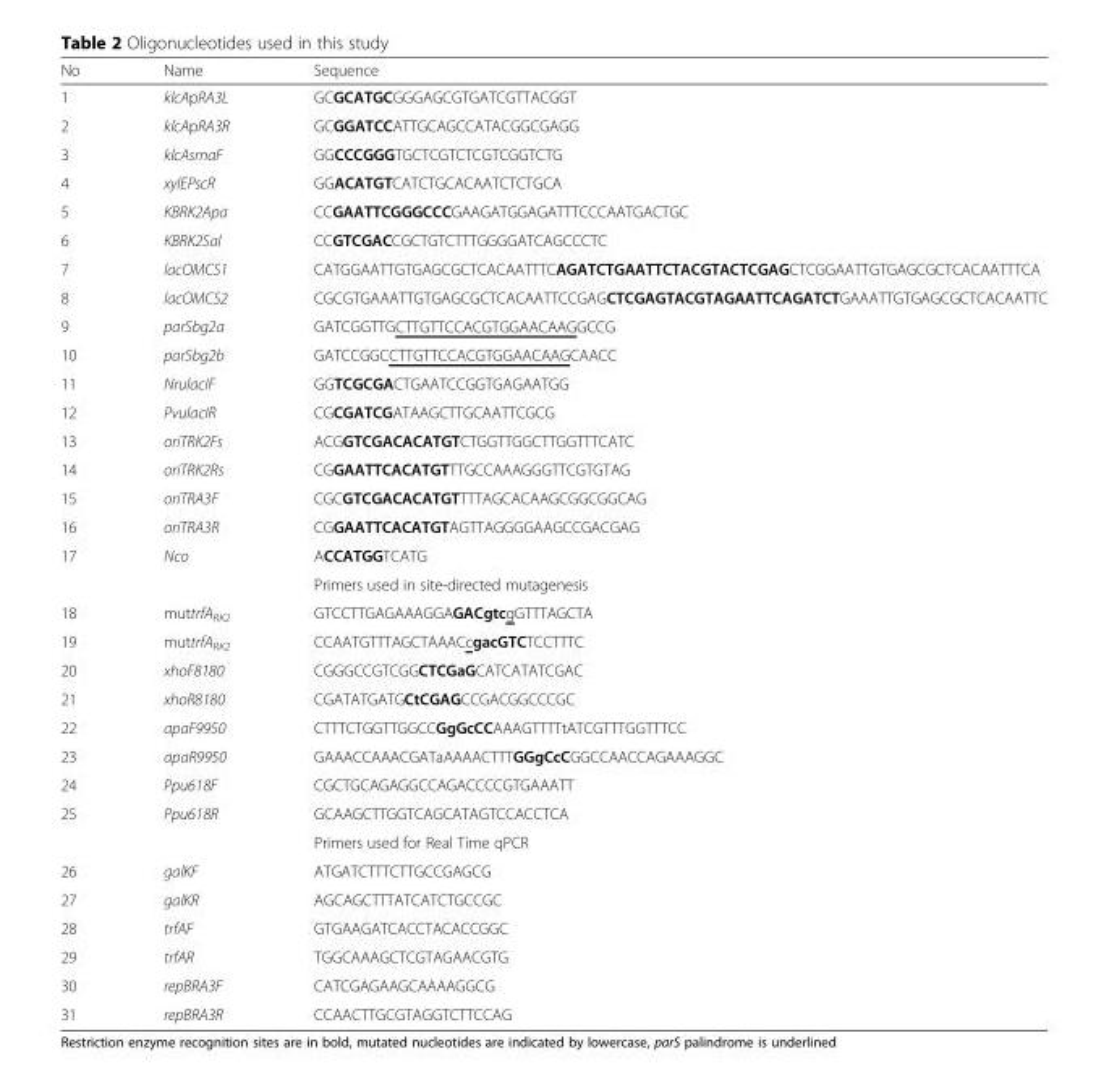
<table><thead><tr><td>No</td><td>Name</td><td>Sequence</td></tr></thead><tbody><tr><td>1</td><td>klcApRA3L</td><td>GCGCATGCGGGAGCGTGATCGTTACGGT</td></tr><tr><td>2</td><td>klcApRA3R</td><td>GCGGATCCATTGCAGCCATACGGCGAGG</td></tr><tr><td>3</td><td>klcAsmaF</td><td>GGCCCGGGTGCTCGTCTCGTCGGTCTG</td></tr><tr><td>4</td><td>xylEPscR</td><td>GGACATGTCATCTGCACAATCTCTGCA</td></tr><tr><td>5</td><td>KBRK2Apa</td><td>CCGAATTCGGGCCCGAAGATGGAGATTTCCCAATGACTGC</td></tr><tr><td>6</td><td>KBRK2Sal</td><td>CCGTCGACCGCTGTCTTTGGGGATCAGCCCTC</td></tr><tr><td>7</td><td>lacOMCS1</td><td>CATGGAATTGTGAGCGCTCACAATTTCAGATCTGAATTCTACGTACTCGAGCTCGGAATTGTGAGCGCTCACAATTTCA</td></tr><tr><td>8</td><td>lacOMCS2</td><td>CGCGTGAAATTGTGAGCGCTCACAATTCCGAGCTCGAGTACGTAGAATTCAGATCTGAAATTGTGAGCGCTCACAATTC</td></tr><tr><td>9</td><td>parSbg2a</td><td>GATCGGTTGCTTGTTCCACGTGGAACAAGGCCG</td></tr><tr><td>10</td><td>parSbg2b</td><td>GATCCGGCCTTGTTCCACGTGGAACAAGCAACC</td></tr><tr><td>11</td><td>NrulacIF</td><td>GGTCGCGACTGAATCCGGTGAGAATGG</td></tr><tr><td>12</td><td>PvulacIR</td><td>CGCGATCGATAAGCTTGCAATTCGCG</td></tr><tr><td>13</td><td>oriTRK2Fs</td><td>ACGGTCGACACATGTCTGGTTGGCTTGGTTTCATC</td></tr><tr><td>14</td><td>oriTRK2Rs</td><td>CGGAATTCACATGTTTGCCAAAGGGTTCGTGTAG</td></tr><tr><td>15</td><td>oriTRA3F</td><td>CGCGTCGACACATGTTTTAGCACAAGCGGCGGCAG</td></tr><tr><td>16</td><td>oriTRA3R</td><td>CGGAATTCACATGTAGTTAGGGGAAGCCGACGAG</td></tr><tr><td>17</td><td>Nco</td><td>ACCATGGTCATG</td></tr><tr><td colspan="2"></td><td>Primers used in site-directed mutagenesis</td></tr><tr><td>18</td><td>muttrfA<sub>RK2</sub></td><td>GTCCTTGAGAAAGGAGACgtcgGTTTAGCTA</td></tr><tr><td>19</td><td>muttrfA<sub>RK2</sub></td><td>CCAATGTTTAGCTAAACcgacGTCTCCTTTC</td></tr><tr><td>20</td><td>xhoF8180</td><td>CGGGCCGTCGGCTCGaGCATCATATCGAC</td></tr><tr><td>21</td><td>xhoR8180</td><td>CGATATGATGCtCGAGCCGACGGCCCGC</td></tr><tr><td>22</td><td>apaF9950</td><td>CTTTCTGGTTGGCCGgGcCCAAAGTTTTtATCGTTTGGTTTCC</td></tr><tr><td>23</td><td>apaR9950</td><td>GAAACCAAACGATaAAAACTTTGGgCcCGGCCAACCAGAAAGGC</td></tr><tr><td>24</td><td>Ppu618F</td><td>CGCTGCAGAGGCCAGACCCCGTGAAATT</td></tr><tr><td>25</td><td>Ppu618R</td><td>GCAAGCTTGGTCAGCATAGTCCACCTCA</td></tr><tr><td colspan="2"></td><td>Primers used for Real Time qPCR</td></tr><tr><td>26</td><td>galKF</td><td>ATGATCTTTCTTGCCGAGCG</td></tr><tr><td>27</td><td>galKR</td><td>AGCAGCTTTATCATCTGCCGC</td></tr><tr><td>28</td><td>trfAF</td><td>GTGAAGATCACCTACACCGGC</td></tr><tr><td>29</td><td>trfAR</td><td>TGGCAAAGCTCGTAGAACGTG</td></tr><tr><td>30</td><td>repBRA3F</td><td>CATCGAGAAGCAAAAGGCG</td></tr><tr><td>31</td><td>repBRA3R</td><td>CCAACTTGCGTAGGTCTTCCAG</td></tr></tbody></table>